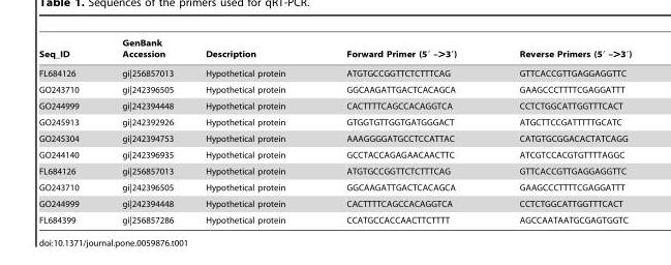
<table><thead><tr><td>Seq_ID</td><td>GenBank Accession</td><td>Description</td><td>Forward Primer (5′ –&gt;3′)</td><td>Reverse Primers (5′ –&gt;3′)</td></tr></thead><tbody><tr><td>FL684126</td><td>gi|256857013</td><td>Hypothetical protein</td><td>ATGTGCCGGTTCTCTTTCAG</td><td>GTTCACCGTTGAGGAGGTTC</td></tr><tr><td>GO243710</td><td>gi|242396505</td><td>Hypothetical protein</td><td>GGCAAGATTGACTCACAGCA</td><td>GAAGCCCTTTTCGAGGATTT</td></tr><tr><td>GO244999</td><td>gi|242394448</td><td>Hypothetical protein</td><td>CACTTTTCAGCCACAGGTCA</td><td>CCTCTGGCATTGGTTTCACT</td></tr><tr><td>GO245913</td><td>gi|242392926</td><td>Hypothetical protein</td><td>GTGGTGTTGGTGATGGGACT</td><td>ATGCTTCCGATTTTTGCATC</td></tr><tr><td>GO245304</td><td>gi|242394753</td><td>Hypothetical protein</td><td>AAAGGGGATGCCTCCATTAC</td><td>CATGTGCGGACACTATCAGG</td></tr><tr><td>GO244140</td><td>gi|242396935</td><td>Hypothetical protein</td><td>GCCTACCAGAGAACAACTTC</td><td>ATCGTCCACGTGTTTTAGGC</td></tr><tr><td>FL684126</td><td>gi|256857013</td><td>Hypothetical protein</td><td>ATGTGCCGGTTCTCTTTCAG</td><td>GTTCACCGTTGAGGAGGTTC</td></tr><tr><td>GO243710</td><td>gi|242396505</td><td>Hypothetical protein</td><td>GGCAAGATTGACTCACAGCA</td><td>GAAGCCCTTTTCGAGGATTT</td></tr><tr><td>GO244999</td><td>gi|242394448</td><td>Hypothetical protein</td><td>CACTTTTCAGCCACAGGTCA</td><td>CCTCTGGCATTGGTTTCACT</td></tr><tr><td>FL684399</td><td>gi|256857286</td><td>Hypothetical protein</td><td>CCATGCCACCAACTTCTTTT</td><td>AGCCAATAATGCGAGTGGTC</td></tr></tbody></table>